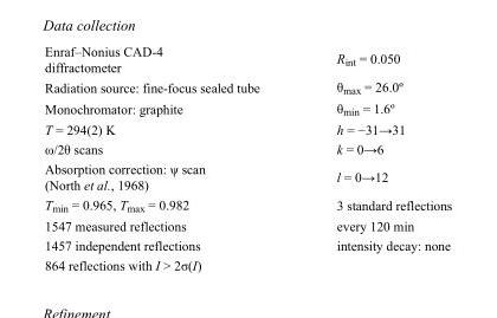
<table><tbody><tr><td>Enraf–Nonius CAD-4 diffractometer</td><td>R<sub>int</sub> = 0.050</td></tr><tr><td>Radiation source: fine-focus sealed tube</td><td>θ<sub>max</sub> = 26.0º</td></tr><tr><td>Monochromator: graphite</td><td>θ<sub>min</sub> = 1.6º</td></tr><tr><td>T = 294(2) K</td><td>h = −31→31</td></tr><tr><td>ω/2θ scans</td><td>k = 0→6</td></tr><tr><td>Absorption correction: ψ scan (North et al., 1968)</td><td>l = 0→12</td></tr><tr><td>T<sub>min</sub> = 0.965, T<sub>max</sub> = 0.982</td><td>3 standard reflections</td></tr><tr><td>1547 measured reflections</td><td>every 120 min</td></tr><tr><td>1457 independent reflections</td><td>intensity decay: none</td></tr><tr><td>864 reflections with I &gt; 2σ(I)</td><td></td></tr></tbody></table>